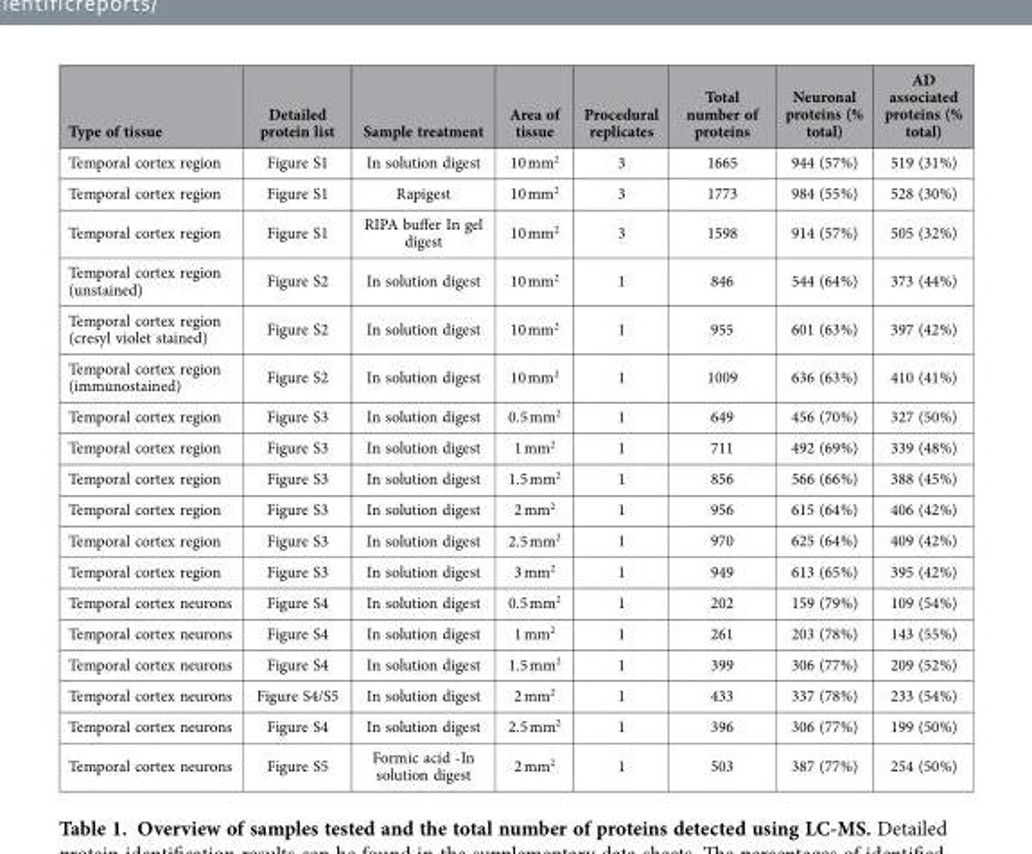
<table><thead><tr><td>Type of tissue</td><td>Detailed protein list</td><td>Sample treatment</td><td>Area of tissue</td><td>Procedural replicates</td><td>Total number of proteins</td><td>Neuronal proteins (% total)</td><td>AD associated proteins (% total)</td></tr></thead><tbody><tr><td>Temporal cortex region</td><td>Figure S1</td><td>In solution digest</td><td>10 mm<sup>2</sup></td><td>3</td><td>1665</td><td>944 (57%)</td><td>519 (31%)</td></tr><tr><td>Temporal cortex region</td><td>Figure S1</td><td>Rapigest</td><td>10 mm<sup>2</sup></td><td>3</td><td>1773</td><td>984 (55%)</td><td>528 (30%)</td></tr><tr><td>Temporal cortex region</td><td>Figure S1</td><td>RIPA buffer In gel digest</td><td>10 mm<sup>2</sup></td><td>3</td><td>1598</td><td>914 (57%)</td><td>505 (32%)</td></tr><tr><td>Temporal cortex region (unstained)</td><td>Figure S2</td><td>In solution digest</td><td>10 mm<sup>2</sup></td><td>1</td><td>846</td><td>544 (64%)</td><td>373 (44%)</td></tr><tr><td>Temporal cortex region (cresyl violet stained)</td><td>Figure S2</td><td>In solution digest</td><td>10 mm<sup>2</sup></td><td>1</td><td>955</td><td>601 (63%)</td><td>397 (42%)</td></tr><tr><td>Temporal cortex region (immunostained)</td><td>Figure S2</td><td>In solution digest</td><td>10 mm<sup>2</sup></td><td>1</td><td>1009</td><td>636 (63%)</td><td>410 (41%)</td></tr><tr><td>Temporal cortex region</td><td>Figure S3</td><td>In solution digest</td><td>0.5 mm<sup>2</sup></td><td>1</td><td>649</td><td>456 (70%)</td><td>327 (50%)</td></tr><tr><td>Temporal cortex region</td><td>Figure S3</td><td>In solution digest</td><td>1 mm<sup>2</sup></td><td>1</td><td>711</td><td>492 (69%)</td><td>339 (48%)</td></tr><tr><td>Temporal cortex region</td><td>Figure S3</td><td>In solution digest</td><td>1.5 mm<sup>2</sup></td><td>1</td><td>856</td><td>566 (66%)</td><td>388 (45%)</td></tr><tr><td>Temporal cortex region</td><td>Figure S3</td><td>In solution digest</td><td>2 mm<sup>2</sup></td><td>1</td><td>956</td><td>615 (64%)</td><td>406 (42%)</td></tr><tr><td>Temporal cortex region</td><td>Figure S3</td><td>In solution digest</td><td>2.5 mm<sup>2</sup></td><td>1</td><td>970</td><td>625 (64%)</td><td>409 (42%)</td></tr><tr><td>Temporal cortex region</td><td>Figure S3</td><td>In solution digest</td><td>3 mm<sup>2</sup></td><td>1</td><td>949</td><td>613 (65%)</td><td>395 (42%)</td></tr><tr><td>Temporal cortex neurons</td><td>Figure S4</td><td>In solution digest</td><td>0.5 mm<sup>2</sup></td><td>1</td><td>202</td><td>159 (79%)</td><td>109 (54%)</td></tr><tr><td>Temporal cortex neurons</td><td>Figure S4</td><td>In solution digest</td><td>1 mm<sup>2</sup></td><td>1</td><td>261</td><td>203 (78%)</td><td>143 (55%)</td></tr><tr><td>Temporal cortex neurons</td><td>Figure S4</td><td>In solution digest</td><td>1.5 mm<sup>2</sup></td><td>1</td><td>399</td><td>306 (77%)</td><td>209 (52%)</td></tr><tr><td>Temporal cortex neurons</td><td>Figure S4/S5</td><td>In solution digest</td><td>2 mm<sup>2</sup></td><td>1</td><td>433</td><td>337 (78%)</td><td>233 (54%)</td></tr><tr><td>Temporal cortex neurons</td><td>Figure S4</td><td>In solution digest</td><td>2.5 mm<sup>2</sup></td><td>1</td><td>396</td><td>306 (77%)</td><td>199 (50%)</td></tr><tr><td>Temporal cortex neurons</td><td>Figure S5</td><td>Formic acid -In solution digest</td><td>2 mm<sup>2</sup></td><td>1</td><td>503</td><td>387 (77%)</td><td>254 (50%)</td></tr></tbody></table>